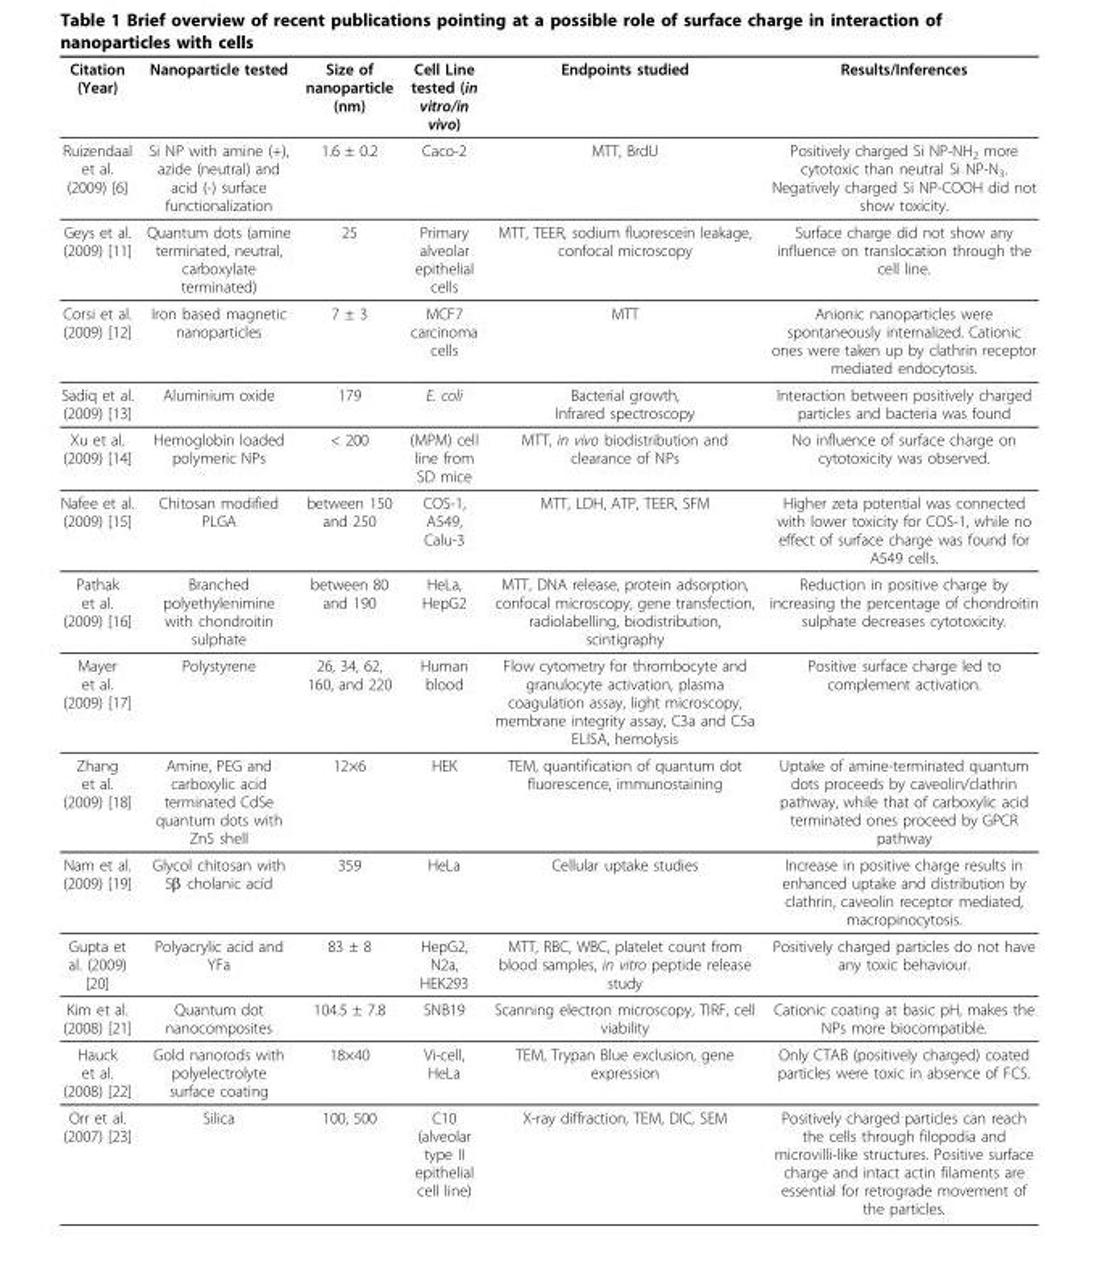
<table><thead><tr><td>Citation (Year)</td><td>Nanoparticle tested</td><td>Size of nanoparticle (nm)</td><td>Cell Line tested (in vitro/in vivo)</td><td>Endpoints studied</td><td>Results/Inferences</td></tr></thead><tbody><tr><td>Ruizendaal et al. (2009) [6]</td><td>Si NP with amine (+), azide (neutral) and acid (-) surface functionalization</td><td>1.6 ± 0.2</td><td>Caco-2</td><td>MTT, BrdU</td><td>Positively charged Si NP-NH<sub>2</sub> more cytotoxic than neutral Si NP-N<sub>3</sub>. Negatively charged Si NP-COOH did not show toxicity.</td></tr><tr><td>Geys et al. (2009) [11]</td><td>Quantum dots (amine terminated, neutral, carboxylate terminated)</td><td>25</td><td>Primary alveolar epithelial cells</td><td>MTT, TEER, sodium fluorescein leakage, confocal microscopy</td><td>Surface charge did not show any influence on translocation through the cell line.</td></tr><tr><td>Corsi et al. (2009) [12]</td><td>Iron based magnetic nanoparticles</td><td>7 ± 3</td><td>MCF7 carcinoma cells</td><td>MTT</td><td>Anionic nanoparticles were spontaneously internalized. Cationic ones were taken up by clathrin receptor mediated endocytosis.</td></tr><tr><td>Sadiq et al. (2009) [13]</td><td>Aluminium oxide</td><td>179</td><td>E. coli</td><td>Bacterial growth, Infrared spectroscopy</td><td>Interaction between positively charged particles and bacteria was found</td></tr><tr><td>Xu et al. (2009) [14]</td><td>Hemoglobin loaded polymeric NPs</td><td>&lt; 200</td><td>(MPM) cell line from SD mice</td><td>MTT, in vivo biodistribution and clearance of NPs</td><td>No influence of surface charge on cytotoxicity was observed.</td></tr><tr><td>Nafee et al. (2009) [15]</td><td>Chitosan modified PLGA</td><td>between 150 and 250</td><td>COS-1, A549, Calu-3</td><td>MTT, LDH, ATP, TEER, SFM</td><td>Higher zeta potential was connected with lower toxicity for COS-1, while no effect of surface charge was found for A549 cells.</td></tr><tr><td>Pathak et al. (2009) [16]</td><td>Branched polyethylenimine with chondroitin sulphate</td><td>between 80 and 190</td><td>HeLa, HepG2</td><td>MTT, DNA release, protein adsorption, confocal microscopy, gene transfection, radiolabelling, biodistribution, scintigraphy</td><td>Reduction in positive charge by increasing the percentage of chondroitin sulphate decreases cytotoxicity.</td></tr><tr><td>Mayer et al. (2009) [17]</td><td>Polystyrene</td><td>26, 34, 62, 160, and 220</td><td>Human blood</td><td>Flow cytometry for thrombocyte and granulocyte activation, plasma coagulation assay, light microscopy, membrane integrity assay, C3a and C5a ELISA, hemolysis</td><td>Positive surface charge led to complement activation.</td></tr><tr><td>Zhang et al. (2009) [18]</td><td>Amine, PEG and carboxylic acid terminated CdSe quantum dots with ZnS shell</td><td>12×6</td><td>HEK</td><td>TEM, quantification of quantum dot fluorescence, immunostaining</td><td>Uptake of amine-terminated quantum dots proceeds by caveolin/clathrin pathway, while that of carboxylic acid terminated ones proceed by GPCR pathway</td></tr><tr><td>Nam et al. (2009) [19]</td><td>Glycol chitosan with 5β cholanic acid</td><td>359</td><td>HeLa</td><td>Cellular uptake studies</td><td>Increase in positive charge results in enhanced uptake and distribution by clathrin, caveolin receptor mediated, macropinocytosis.</td></tr><tr><td>Gupta et al. (2009) [20]</td><td>Polyacrylic acid and YFa</td><td>83 ± 8</td><td>HepG2, N2a, HEK293</td><td>MTT, RBC, WBC, platelet count from blood samples, in vitro peptide release study</td><td>Positively charged particles do not have any toxic behaviour.</td></tr><tr><td>Kim et al. (2008) [21]</td><td>Quantum dot nanocomposites</td><td>104.5 ± 7.8</td><td>SNB19</td><td>Scanning electron microscopy, TIRF, cell viability</td><td>Cationic coating at basic pH, makes the NPs more biocompatible.</td></tr><tr><td>Hauck et al. (2008) [22]</td><td>Gold nanorods with polyelectrolyte surface coating</td><td>18×40</td><td>Vi-cell, HeLa</td><td>TEM, Trypan Blue exclusion, gene expression</td><td>Only CTAB (positively charged) coated particles were toxic in absence of FCS.</td></tr><tr><td>Orr et al. (2007) [23]</td><td>Silica</td><td>100, 500</td><td>C10 (alveolar type II epithelial cell line)</td><td>X-ray diffraction, TEM, DIC, SEM</td><td>Positively charged particles can reach the cells through filopodia and microvilli-like structures. Positive surface charge and intact actin filaments are essential for retrograde movement of the particles.</td></tr></tbody></table>